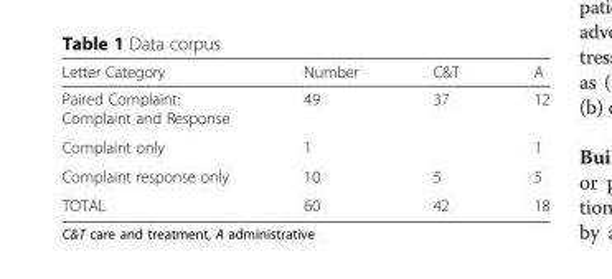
<table><thead><tr><td>Letter Category</td><td>Number</td><td>C&amp;T</td><td>A</td></tr></thead><tbody><tr><td>Paired Complaint: Complaint and Response</td><td>49</td><td>37</td><td>12</td></tr><tr><td>Complaint only</td><td>1</td><td></td><td>1</td></tr><tr><td>Complaint response only</td><td>10</td><td>5</td><td>5</td></tr><tr><td>TOTAL</td><td>60</td><td>42</td><td>18</td></tr></tbody></table>